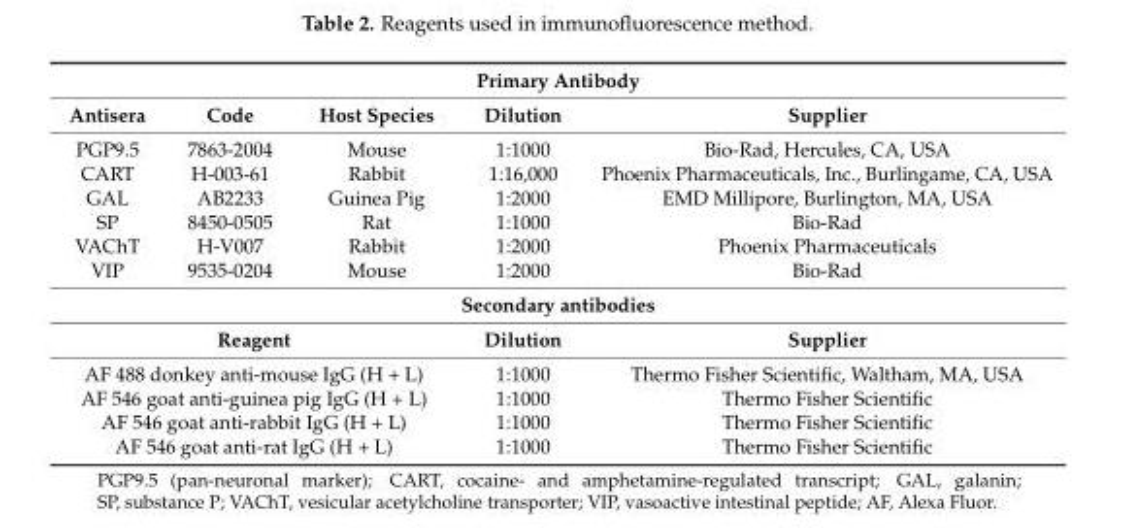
<table><tbody><tr><td colspan="5">Primary Antibody</td></tr><tr><td>Antisera</td><td>Code</td><td>Host Species</td><td>Dilution</td><td>Supplier</td></tr><tr><td>PGP9.5</td><td>7863-2004</td><td>Mouse</td><td>1:1000</td><td>Bio-Rad, Hercules, CA, USA</td></tr><tr><td>CART</td><td>H-003-61</td><td>Rabbit</td><td>1:16,000</td><td>Phoenix Pharmaceuticals, Inc., Burlingame, CA, USA</td></tr><tr><td>GAL</td><td>AB2233</td><td>Guinea Pig</td><td>1:2000</td><td>EMD Millipore, Burlington, MA, USA</td></tr><tr><td>SP</td><td>8450-0505</td><td>Rat</td><td>1:1000</td><td>Bio-Rad</td></tr><tr><td>VAChT</td><td>H-V007</td><td>Rabbit</td><td>1:2000</td><td>Phoenix Pharmaceuticals</td></tr><tr><td>VIP</td><td>9535-0204</td><td>Mouse</td><td>1:2000</td><td>Bio-Rad</td></tr><tr><td colspan="5">Secondary antibodies</td></tr><tr><td colspan="3">Reagent</td><td>Dilution</td><td>Supplier</td></tr><tr><td colspan="3">AF 488 donkey anti-mouse IgG (H + L)</td><td>1:1000</td><td>Thermo Fisher Scientific, Waltham, MA, USA</td></tr><tr><td colspan="3">AF 546 goat anti-guinea pig IgG (H + L)</td><td>1:1000</td><td>Thermo Fisher Scientific</td></tr><tr><td colspan="3">AF 546 goat anti-rabbit IgG (H + L)</td><td>1:1000</td><td>Thermo Fisher Scientific</td></tr><tr><td colspan="3">AF 546 goat anti-rat IgG (H + L)</td><td>1:1000</td><td>Thermo Fisher Scientific</td></tr></tbody></table>